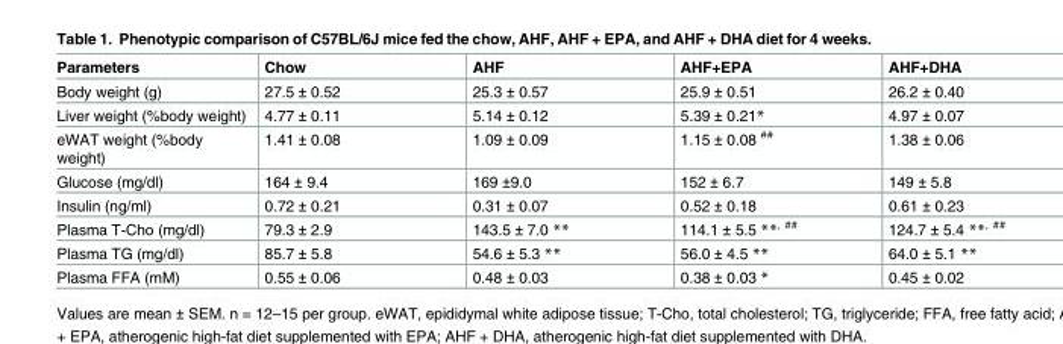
<table><thead><tr><td>Parameters</td><td>Chow</td><td>AHF</td><td>AHF+EPA</td><td>AHF+DHA</td></tr></thead><tbody><tr><td>Body weight (g)</td><td>27.5 ± 0.52</td><td>25.3 ± 0.57</td><td>25.9 ± 0.51</td><td>26.2 ± 0.40</td></tr><tr><td>Liver weight (%body weight)</td><td>4.77 ± 0.11</td><td>5.14 ± 0.12</td><td>5.39 ± 0.21*</td><td>4.97 ± 0.07</td></tr><tr><td>eWAT weight (%body weight)</td><td>1.41 ± 0.08</td><td>1.09 ± 0.09</td><td>1.15 ± 0.08 <sup>##</sup></td><td>1.38 ± 0.06</td></tr><tr><td>Glucose (mg/dl)</td><td>164 ± 9.4</td><td>169 ±9.0</td><td>152 ± 6.7</td><td>149 ± 5.8</td></tr><tr><td>Insulin (ng/ml)</td><td>0.72 ± 0.21</td><td>0.31 ± 0.07</td><td>0.52 ± 0.18</td><td>0.61 ± 0.23</td></tr><tr><td>Plasma T-Cho (mg/dl)</td><td>79.3 ± 2.9</td><td>143.5 ± 7.0 **</td><td>114.1 ± 5.5 **<sup>, ##</sup></td><td>124.7 ± 5.4 **<sup>, ##</sup></td></tr><tr><td>Plasma TG (mg/dl)</td><td>85.7 ± 5.8</td><td>54.6 ± 5.3 **</td><td>56.0 ± 4.5 **</td><td>64.0 ± 5.1 **</td></tr><tr><td>Plasma FFA (mM)</td><td>0.55 ± 0.06</td><td>0.48 ± 0.03</td><td>0.38 ± 0.03 *</td><td>0.45 ± 0.02</td></tr></tbody></table>